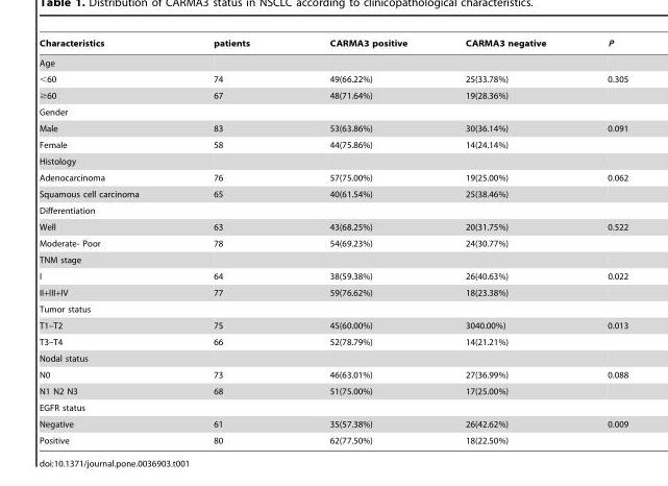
<table><thead><tr><td>Characteristics</td><td>patients</td><td>CARMA3 positive</td><td>CARMA3 negative</td><td>P</td></tr></thead><tbody><tr><td colspan="5">Age</td></tr><tr><td>&lt;60</td><td>74</td><td>49(66.22%)</td><td>25(33.78%)</td><td>0.305</td></tr><tr><td>≥60</td><td>67</td><td>48(71.64%)</td><td>19(28.36%)</td><td></td></tr><tr><td colspan="5">Gender</td></tr><tr><td>Male</td><td>83</td><td>53(63.86%)</td><td>30(36.14%)</td><td>0.091</td></tr><tr><td>Female</td><td>58</td><td>44(75.86%)</td><td>14(24.14%)</td><td></td></tr><tr><td colspan="5">Histology</td></tr><tr><td>Adenocarcinoma</td><td>76</td><td>57(75.00%)</td><td>19(25.00%)</td><td>0.062</td></tr><tr><td>Squamous cell carcinoma</td><td>65</td><td>40(61.54%)</td><td>25(38.46%)</td><td></td></tr><tr><td colspan="5">Differentiation</td></tr><tr><td>Well</td><td>63</td><td>43(68.25%)</td><td>20(31.75%)</td><td>0.522</td></tr><tr><td>Moderate- Poor</td><td>78</td><td>54(69.23%)</td><td>24(30.77%)</td><td></td></tr><tr><td colspan="5">TNM stage</td></tr><tr><td>I</td><td>64</td><td>38(59.38%)</td><td>26(40.63%)</td><td>0.022</td></tr><tr><td>II+III+IV</td><td>77</td><td>59(76.62%)</td><td>18(23.38%)</td><td></td></tr><tr><td colspan="5">Tumor status</td></tr><tr><td>T1–T2</td><td>75</td><td>45(60.00%)</td><td>3040.00%)</td><td>0.013</td></tr><tr><td>T3–T4</td><td>66</td><td>52(78.79%)</td><td>14(21.21%)</td><td></td></tr><tr><td colspan="5">Nodal status</td></tr><tr><td>N0</td><td>73</td><td>46(63.01%)</td><td>27(36.99%)</td><td>0.088</td></tr><tr><td>N1 N2 N3</td><td>68</td><td>51(75.00%)</td><td>17(25.00%)</td><td></td></tr><tr><td colspan="5">EGFR status</td></tr><tr><td>Negative</td><td>61</td><td>35(57.38%)</td><td>26(42.62%)</td><td>0.009</td></tr><tr><td>Positive</td><td>80</td><td>62(77.50%)</td><td>18(22.50%)</td><td></td></tr></tbody></table>